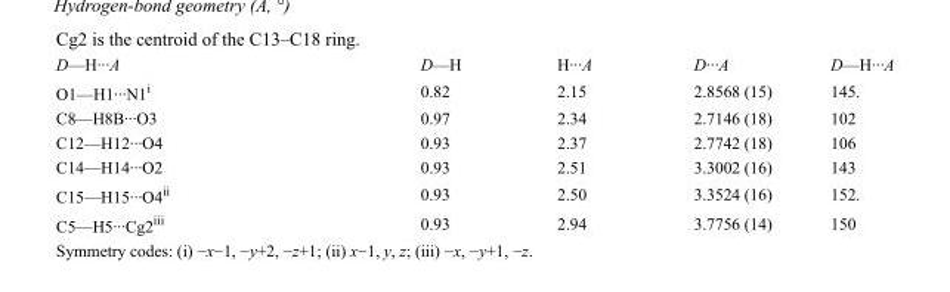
<table><tbody><tr><td>D—H···A</td><td>D—H</td><td>H···A</td><td>D···A</td><td>D—H···A</td></tr><tr><td>O1—H1···N1<sup>i</sup></td><td>0.82</td><td>2.15</td><td>2.8568 (15)</td><td>145.</td></tr><tr><td>C8—H8B···O3</td><td>0.97</td><td>2.34</td><td>2.7146 (18)</td><td>102</td></tr><tr><td>C12—H12···O4</td><td>0.93</td><td>2.37</td><td>2.7742 (18)</td><td>106</td></tr><tr><td>C14—H14···O2</td><td>0.93</td><td>2.51</td><td>3.3002 (16)</td><td>143</td></tr><tr><td>C15—H15···O4<sup>ii</sup></td><td>0.93</td><td>2.50</td><td>3.3524 (16)</td><td>152.</td></tr><tr><td>C5—H5···Cg2<sup>iii</sup></td><td>0.93</td><td>2.94</td><td>3.7756 (14)</td><td>150</td></tr></tbody></table>